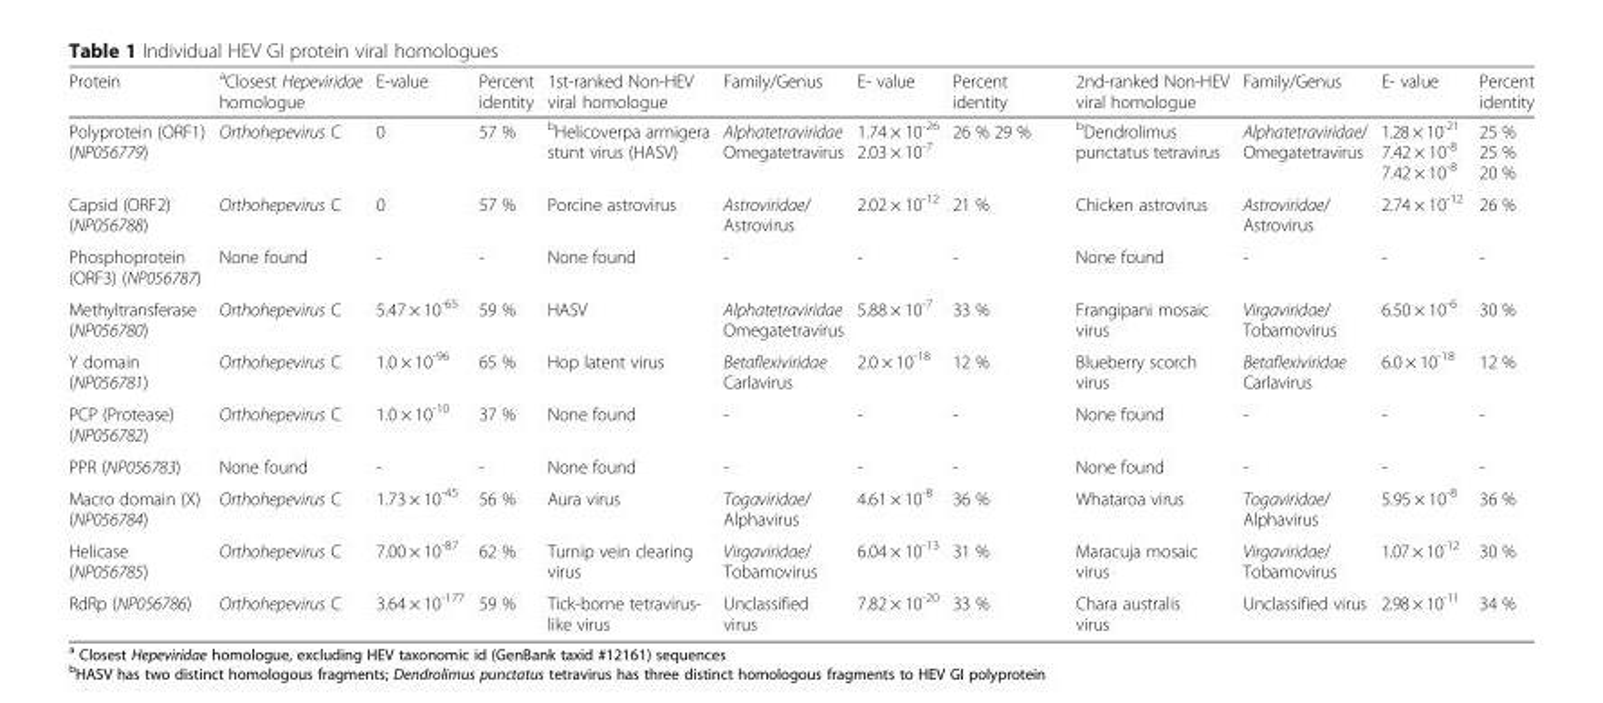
<table><thead><tr><td>Protein</td><td><sup>a</sup>Closest Hepeviridae homologue</td><td>E-value</td><td>Percent identity</td><td>1st-ranked Non-HEV viral homologue</td><td>Family/Genus</td><td>E- value</td><td>Percent identity</td><td>2nd-ranked Non-HEV viral homologue</td><td>Family/Genus</td><td>E- value</td><td>Percent identity</td></tr></thead><tbody><tr><td>Polyprotein (ORF1) (NP056779)</td><td>Orthohepevirus C</td><td>0</td><td>57 %</td><td><sup>b</sup>Helicoverpa armigera stunt virus (HASV)</td><td>Alphatetraviridae Omegatetravirus</td><td>1.74 × 10<sup>-26</sup> 2.03 × 10<sup>-7</sup></td><td>26 % 29 %</td><td><sup>b</sup>Dendrolimus punctatus tetravirus</td><td>Alphatetraviridae/ Omegatetravirus</td><td>1.28 × 10<sup>-21</sup> 7.42 × 10<sup>-8</sup> 7.42 × 10<sup>-8</sup></td><td>25 % 25 % 20 %</td></tr><tr><td>Capsid (ORF2) (NP056788)</td><td>Orthohepevirus C</td><td>0</td><td>57 %</td><td>Porcine astrovirus</td><td>Astroviridae/ Astrovirus</td><td>2.02 × 10<sup>-12</sup></td><td>21 %</td><td>Chicken astrovirus</td><td>Astroviridae/ Astrovirus</td><td>2.74 × 10<sup>-12</sup></td><td>26 %</td></tr><tr><td>Phosphoprotein (ORF3) (NP056787)</td><td>None found</td><td>-</td><td>-</td><td>None found</td><td>-</td><td>-</td><td>-</td><td>None found</td><td>-</td><td>-</td><td>-</td></tr><tr><td>Methyltransferase (NP056780)</td><td>Orthohepevirus C</td><td>5.47 × 10<sup>-65</sup></td><td>59 %</td><td>HASV</td><td>Alphatetraviridae Omegatetravirus</td><td>5.88 × 10<sup>-7</sup></td><td>33 %</td><td>Frangipani mosaic virus</td><td>Virgaviridae/ Tobamovirus</td><td>6.50 × 10<sup>-6</sup></td><td>30 %</td></tr><tr><td>Y domain (NP056781)</td><td>Orthohepevirus C</td><td>1.0 × 10<sup>-96</sup></td><td>65 %</td><td>Hop latent virus</td><td>Betaflexiviridae Carlavirus</td><td>2.0 × 10<sup>-18</sup></td><td>12 %</td><td>Blueberry scorch virus</td><td>Betaflexiviridae Carlavirus</td><td>6.0 × 10<sup>-18</sup></td><td>12 %</td></tr><tr><td>PCP (Protease) (NP056782)</td><td>Orthohepevirus C</td><td>1.0 × 10<sup>-10</sup></td><td>37 %</td><td>None found</td><td>-</td><td>-</td><td>-</td><td>None found</td><td>-</td><td>-</td><td>-</td></tr><tr><td>PPR (NP056783)</td><td>None found</td><td>-</td><td>-</td><td>None found</td><td>-</td><td>-</td><td>-</td><td>None found</td><td>-</td><td>-</td><td>-</td></tr><tr><td>Macro domain (X) (NP056784)</td><td>Orthohepevirus C</td><td>1.73 × 10<sup>-45</sup></td><td>56 %</td><td>Aura virus</td><td>Togaviridae/ Alphavirus</td><td>4.61 × 10<sup>-8</sup></td><td>36 %</td><td>Whataroa virus</td><td>Togaviridae/ Alphavirus</td><td>5.95 × 10<sup>-8</sup></td><td>36 %</td></tr><tr><td>Helicase (NP056785)</td><td>Orthohepevirus C</td><td>7.00 × 10<sup>-87</sup></td><td>62 %</td><td>Turnip vein clearing virus</td><td>Virgaviridae/ Tobamovirus</td><td>6.04 × 10<sup>-13</sup></td><td>31 %</td><td>Maracuja mosaic virus</td><td>Virgaviridae/ Tobamovirus</td><td>1.07 × 10<sup>-12</sup></td><td>30 %</td></tr><tr><td>RdRp (NP056786)</td><td>Orthohepevirus C</td><td>3.64 × 10<sup>-177</sup></td><td>59 %</td><td>Tick-borne tetravirus- like virus</td><td>Unclassified virus</td><td>7.82 × 10<sup>-20</sup></td><td>33 %</td><td>Chara australis virus</td><td>Unclassified virus</td><td>2.98 × 10<sup>-11</sup></td><td>34 %</td></tr></tbody></table>